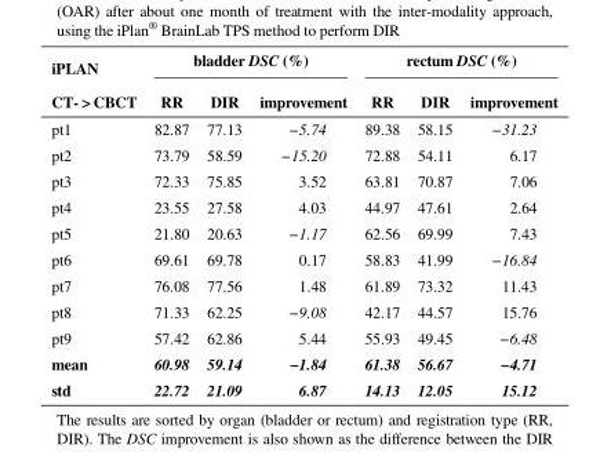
<table><thead><tr><td rowspan="2">iPLAN CT- &gt; CBCT</td><td colspan="3">bladder DSC (%)</td><td colspan="3">rectum DSC (%)</td></tr><tr><td>RR</td><td>DIR</td><td>improvement</td><td>RR</td><td>DIR</td><td>improvement</td></tr></thead><tbody><tr><td>pt1</td><td>82.87</td><td>77.13</td><td>−5.74</td><td>89.38</td><td>58.15</td><td>−31.23</td></tr><tr><td>pt2</td><td>73.79</td><td>58.59</td><td>−15.20</td><td>72.88</td><td>54.11</td><td>6.17</td></tr><tr><td>pt3</td><td>72.33</td><td>75.85</td><td>3.52</td><td>63.81</td><td>70.87</td><td>7.06</td></tr><tr><td>pt4</td><td>23.55</td><td>27.58</td><td>4.03</td><td>44.97</td><td>47.61</td><td>2.64</td></tr><tr><td>pt5</td><td>21.80</td><td>20.63</td><td>−1.17</td><td>62.56</td><td>69.99</td><td>7.43</td></tr><tr><td>pt6</td><td>69.61</td><td>69.78</td><td>0.17</td><td>58.83</td><td>41.99</td><td>−16.84</td></tr><tr><td>pt7</td><td>76.08</td><td>77.56</td><td>1.48</td><td>61.89</td><td>73.32</td><td>11.43</td></tr><tr><td>pt8</td><td>71.33</td><td>62.25</td><td>−9.08</td><td>42.17</td><td>44.57</td><td>15.76</td></tr><tr><td>pt9</td><td>57.42</td><td>62.86</td><td>5.44</td><td>55.93</td><td>49.45</td><td>−6.48</td></tr><tr><td>mean</td><td>60.98</td><td>59.14</td><td>−1.84</td><td>61.38</td><td>56.67</td><td>−4.71</td></tr><tr><td>std</td><td>22.72</td><td>21.09</td><td>6.87</td><td>14.13</td><td>12.05</td><td>15.12</td></tr></tbody></table>